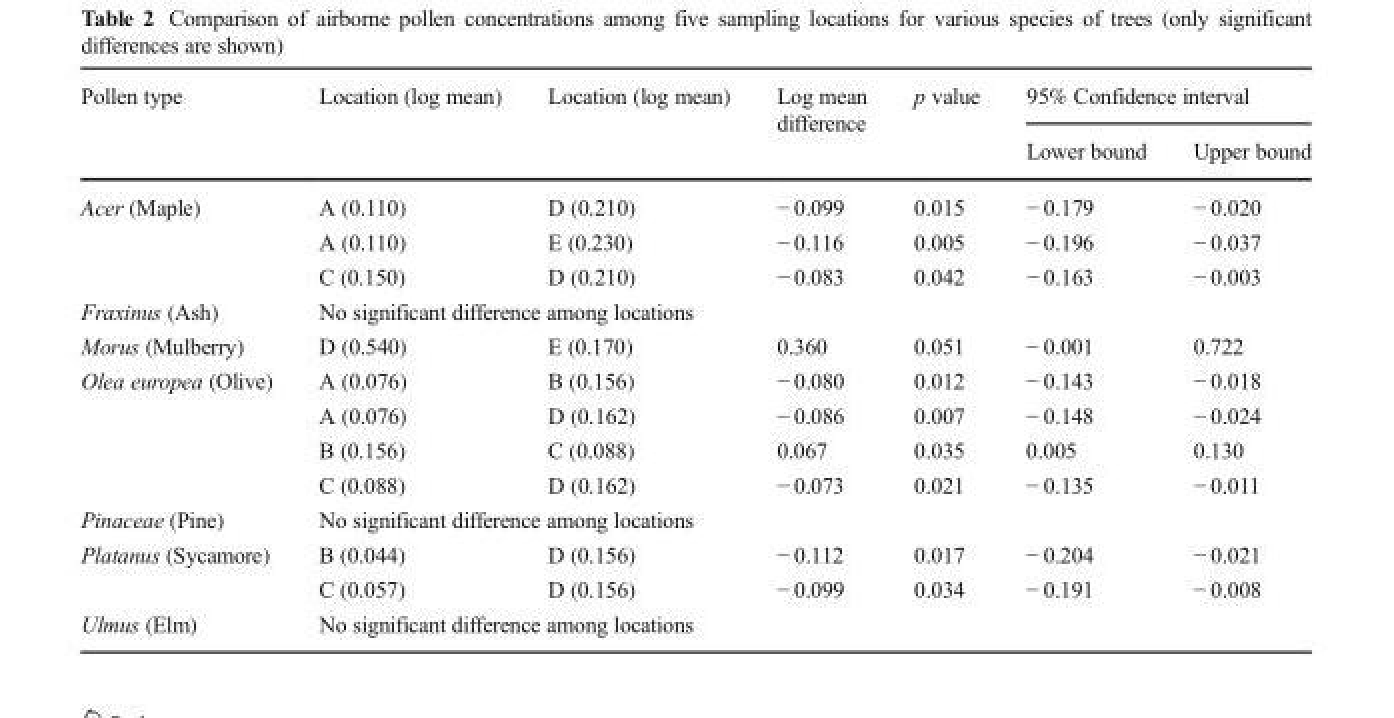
<table><thead><tr><td rowspan="2">Pollen type</td><td rowspan="2">Location (log mean)</td><td rowspan="2">Location (log mean)</td><td rowspan="2">Log mean difference</td><td rowspan="2">p value</td><td colspan="2">95% Confidence interval</td></tr><tr><td>Lower bound</td><td>Upper bound</td></tr></thead><tbody><tr><td rowspan="3">Acer (Maple)</td><td>A (0.110)</td><td>D (0.210)</td><td>− 0.099</td><td>0.015</td><td>− 0.179</td><td>− 0.020</td></tr><tr><td>A (0.110)</td><td>E (0.230)</td><td>− 0.116</td><td>0.005</td><td>− 0.196</td><td>− 0.037</td></tr><tr><td>C (0.150)</td><td>D (0.210)</td><td>− 0.083</td><td>0.042</td><td>− 0.163</td><td>− 0.003</td></tr><tr><td>Fraxinus (Ash)</td><td colspan="6">No significant difference among locations</td></tr><tr><td>Morus (Mulberry)</td><td>D (0.540)</td><td>E (0.170)</td><td>0.360</td><td>0.051</td><td>− 0.001</td><td>0.722</td></tr><tr><td rowspan="4">Olea europea (Olive)</td><td>A (0.076)</td><td>B (0.156)</td><td>− 0.080</td><td>0.012</td><td>− 0.143</td><td>− 0.018</td></tr><tr><td>A (0.076)</td><td>D (0.162)</td><td>− 0.086</td><td>0.007</td><td>− 0.148</td><td>− 0.024</td></tr><tr><td>B (0.156)</td><td>C (0.088)</td><td>0.067</td><td>0.035</td><td>0.005</td><td>0.130</td></tr><tr><td>C (0.088)</td><td>D (0.162)</td><td>− 0.073</td><td>0.021</td><td>− 0.135</td><td>− 0.011</td></tr><tr><td>Pinaceae (Pine)</td><td colspan="6">No significant difference among locations</td></tr><tr><td rowspan="2">Platanus (Sycamore)</td><td>B (0.044)</td><td>D (0.156)</td><td>− 0.112</td><td>0.017</td><td>− 0.204</td><td>− 0.021</td></tr><tr><td>C (0.057)</td><td>D (0.156)</td><td>− 0.099</td><td>0.034</td><td>− 0.191</td><td>− 0.008</td></tr><tr><td>Ulmus (Elm)</td><td colspan="6">No significant difference among locations</td></tr></tbody></table>